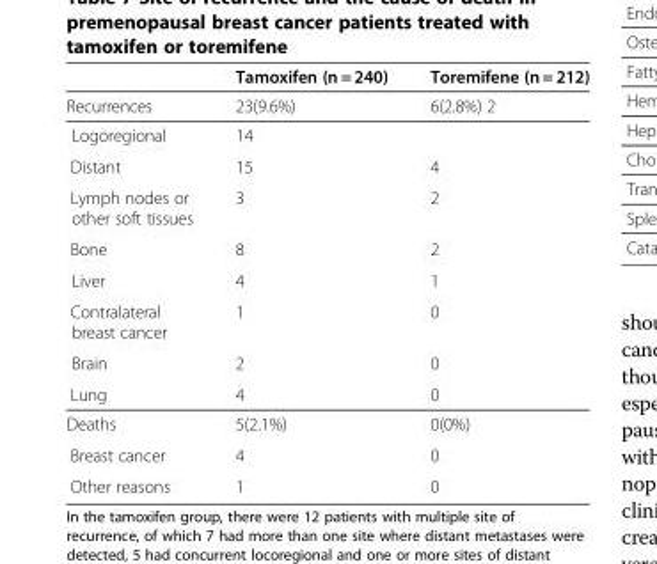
<table><thead><tr><td></td><td>Tamoxifen (n = 240)</td><td>Toremifene (n = 212)</td></tr></thead><tbody><tr><td>Recurrences</td><td>23(9.6%)</td><td>6(2.8%) 2</td></tr><tr><td>Logoregional</td><td>14</td><td></td></tr><tr><td>Distant</td><td>15</td><td>4</td></tr><tr><td>Lymph nodes or other soft tissues</td><td>3</td><td>2</td></tr><tr><td>Bone</td><td>8</td><td>2</td></tr><tr><td>Liver</td><td>4</td><td>1</td></tr><tr><td>Contralateral breast cancer</td><td>1</td><td>0</td></tr><tr><td>Brain</td><td>2</td><td>0</td></tr><tr><td>Lung</td><td>4</td><td>0</td></tr><tr><td>Deaths</td><td>5(2.1%)</td><td>0(0%)</td></tr><tr><td>Breast cancer</td><td>4</td><td>0</td></tr><tr><td>Other reasons</td><td>1</td><td>0</td></tr></tbody></table>